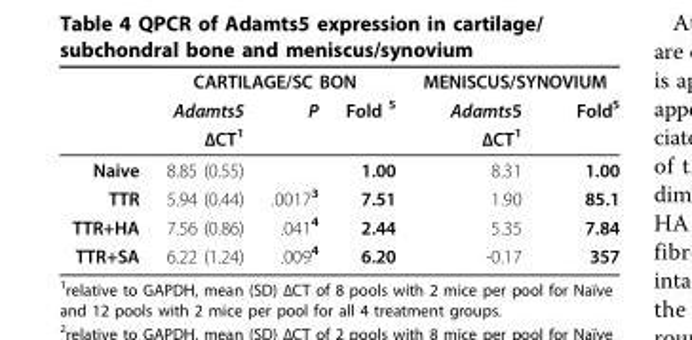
<table><thead><tr><td rowspan="3"></td><td colspan="3">CARTILAGE/SC BON</td><td colspan="2">MENISCUS/SYNOVIUM</td></tr><tr><td rowspan="2">Adamts5 ΔCT1</td><td rowspan="2">P</td><td rowspan="2">Fold <sup>5</sup></td><td rowspan="2">Adamts5 ΔCT1</td><td rowspan="2">Fold<sup>5</sup></td></tr><tr></tr></thead><tbody><tr><td>Naive</td><td>8.85 (0.55)</td><td></td><td>1.00</td><td>8.31</td><td>1.00</td></tr><tr><td>TTR</td><td>5.94 (0.44)</td><td>.0017<sup>3</sup></td><td>7.51</td><td>1.90</td><td>85.1</td></tr><tr><td>TTR+HA</td><td>7.56 (0.86)</td><td>.041<sup>4</sup></td><td>2.44</td><td>5.35</td><td>7.84</td></tr><tr><td>TTR+SA</td><td>6.22 (1.24)</td><td>.009<sup>4</sup></td><td>6.20</td><td>-0.17</td><td>357</td></tr></tbody></table>